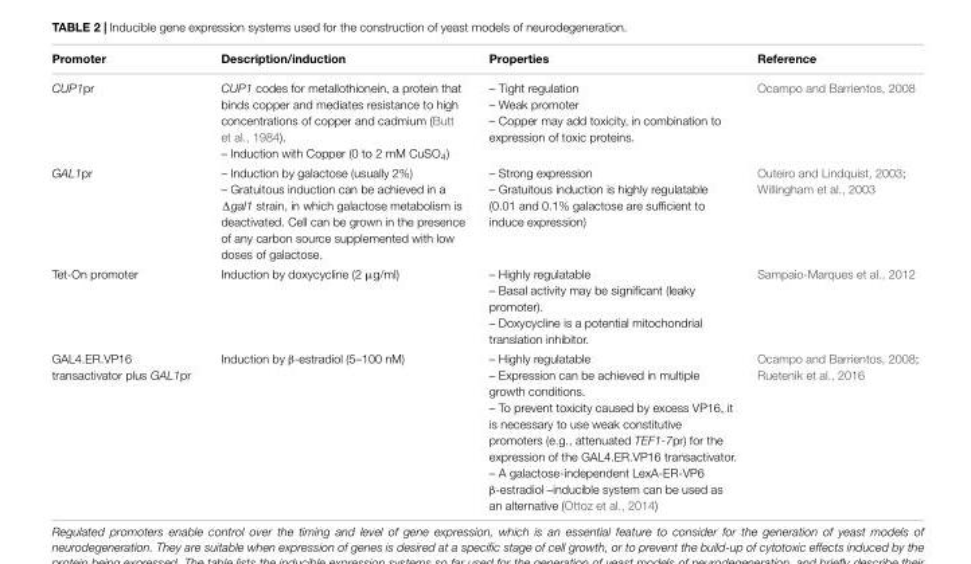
<table><thead><tr><td>Promoter</td><td>Description/induction</td><td>Properties</td><td>Reference</td></tr></thead><tbody><tr><td>CUP1pr</td><td>CUP1 codes for metallothionein, a protein that binds copper and mediates resistance to high concentrations of copper and cadmium (Butt et al., 1984). – Induction with Copper (0 to 2 mM CuSO<sub>4</sub>)</td><td>– Tight regulation – Weak promoter – Copper may add toxicity, in combination to expression of toxic proteins.</td><td>Ocampo and Barrientos, 2008</td></tr><tr><td>GAL1pr</td><td>– Induction by galactose (usually 2%) – Gratuitous induction can be achieved in a Δgal1 strain, in which galactose metabolism is deactivated. Cell can be grown in the presence of any carbon source supplemented with low doses of galactose.</td><td>– Strong expression – Gratuitous induction is highly regulatable (0.01 and 0.1% galactose are sufficient to induce expression)</td><td>Outeiro and Lindquist, 2003; Willingham et al., 2003</td></tr><tr><td>Tet-On promoter</td><td>Induction by doxycycline (2 µg/ml)</td><td>– Highly regulatable – Basal activity may be significant (leaky promoter). – Doxycycline is a potential mitochondrial translation inhibitor.</td><td>Sampaio-Marques et al., 2012</td></tr><tr><td>GAL4.ER.VP16 transactivator plus GAL1pr</td><td>Induction by β-estradiol (5–100 nM)</td><td>– Highly regulatable – Expression can be achieved in multiple growth conditions. – To prevent toxicity caused by excess VP16, it is necessary to use weak constitutive promoters (e.g., attenuated TEF1-7pr) for the expression of the GAL4.ER.VP16 transactivator. – A galactose-independent LexA-ER-VP6 β-estradiol –inducible system can be used as an alternative (Ottoz et al., 2014)</td><td>Ocampo and Barrientos, 2008; Ruetenik et al., 2016</td></tr></tbody></table>